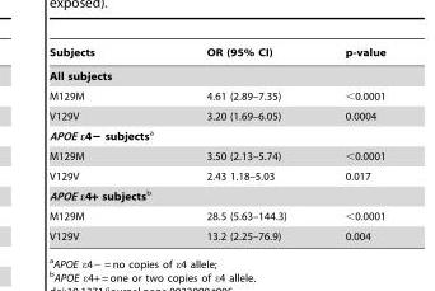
<table><thead><tr><td>Subjects</td><td>OR (95% CI)</td><td>p-value</td></tr></thead><tbody><tr><td colspan="3">All subjects</td></tr><tr><td>M129M</td><td>4.61 (2.89–7.35)</td><td>&lt;0.0001</td></tr><tr><td>V129V</td><td>3.20 (1.69–6.05)</td><td>0.0004</td></tr><tr><td colspan="3">APOE ε4− subjectsa</td></tr><tr><td>M129M</td><td>3.50 (2.13–5.74)</td><td>&lt;0.0001</td></tr><tr><td>V129V</td><td>2.43 1.18–5.03</td><td>0.017</td></tr><tr><td colspan="3">APOE ε4+ subjectsb</td></tr><tr><td>M129M</td><td>28.5 (5.63–144.3)</td><td>&lt;0.0001</td></tr><tr><td>V129V</td><td>13.2 (2.25–76.9)</td><td>0.004</td></tr></tbody></table>